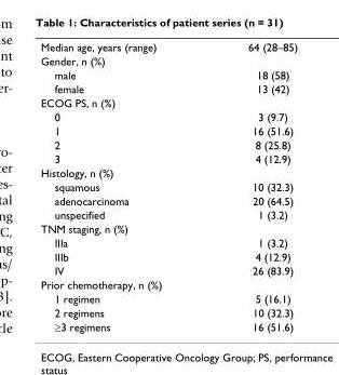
<table><tbody><tr><td>Median age, years (range)</td><td>64 (28–85)</td></tr><tr><td colspan="2">Gender, n (%)</td></tr><tr><td>male</td><td>18 (58)</td></tr><tr><td>female</td><td>13 (42)</td></tr><tr><td colspan="2">ECOG PS, n (%)</td></tr><tr><td>0</td><td>3 (9.7)</td></tr><tr><td>1</td><td>16 (51.6)</td></tr><tr><td>2</td><td>8 (25.8)</td></tr><tr><td>3</td><td>4 (12.9)</td></tr><tr><td colspan="2">Histology, n (%)</td></tr><tr><td>squamous</td><td>10 (32.3)</td></tr><tr><td>adenocarcinoma</td><td>20 (64.5)</td></tr><tr><td>unspecified</td><td>1 (3.2)</td></tr><tr><td colspan="2">TNM staging, n (%)</td></tr><tr><td>IIIa</td><td>1 (3.2)</td></tr><tr><td>IIIb</td><td>4 (12.9)</td></tr><tr><td>IV</td><td>26 (83.9)</td></tr><tr><td colspan="2">Prior chemotherapy, n (%)</td></tr><tr><td>1 regimen</td><td>5 (16.1)</td></tr><tr><td>2 regimens</td><td>10 (32.3)</td></tr><tr><td>≥3 regimens</td><td>16 (51.6)</td></tr></tbody></table>